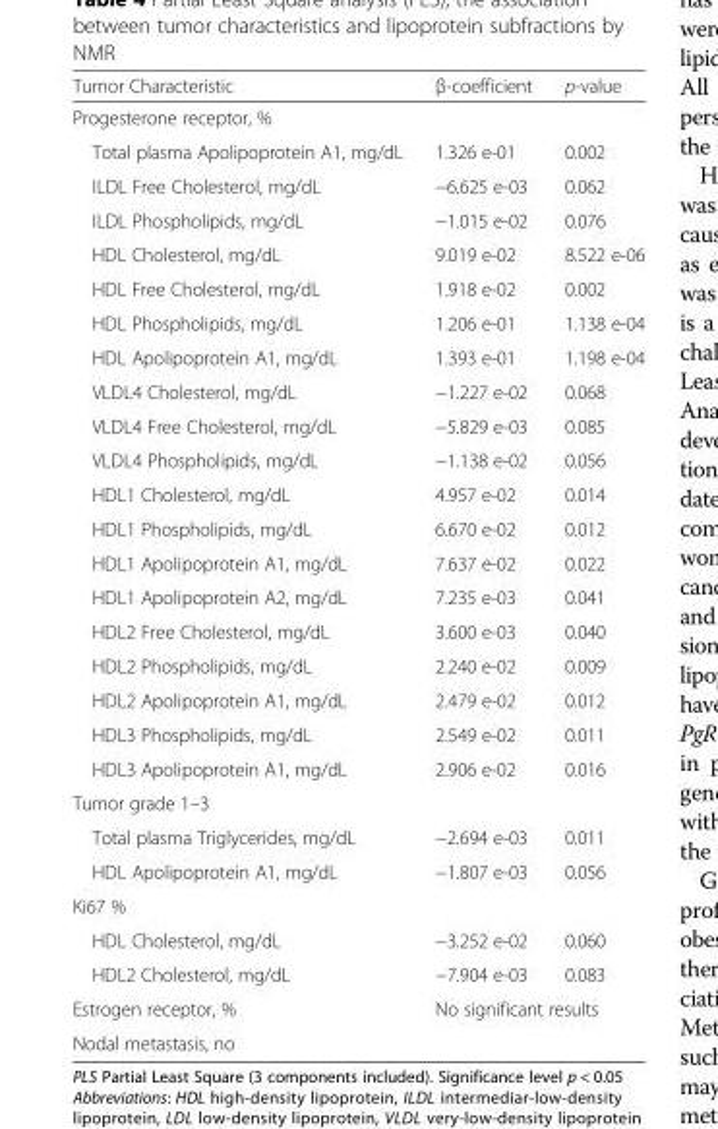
<table><thead><tr><td>Tumor Characteristic</td><td>β-coefficient</td><td>p-value</td></tr></thead><tbody><tr><td colspan="3">Progesterone receptor, %</td></tr><tr><td>Total plasma Apolipoprotein A1, mg/dL</td><td>1.326 e-01</td><td>0.002</td></tr><tr><td>ILDL Free Cholesterol, mg/dL</td><td>−6.625 e-03</td><td>0.062</td></tr><tr><td>ILDL Phospholipids, mg/dL</td><td>−1.015 e-02</td><td>0.076</td></tr><tr><td>HDL Cholesterol, mg/dL</td><td>9.019 e-02</td><td>8.522 e-06</td></tr><tr><td>HDL Free Cholesterol, mg/dL</td><td>1.918 e-02</td><td>0.002</td></tr><tr><td>HDL Phospholipids, mg/dL</td><td>1.206 e-01</td><td>1.138 e-04</td></tr><tr><td>HDL Apolipoprotein A1, mg/dL</td><td>1.393 e-01</td><td>1.198 e-04</td></tr><tr><td>VLDL4 Cholesterol, mg/dL</td><td>−1.227 e-02</td><td>0.068</td></tr><tr><td>VLDL4 Free Cholesterol, mg/dL</td><td>−5.829 e-03</td><td>0.085</td></tr><tr><td>VLDL4 Phospholipids, mg/dL</td><td>−1.138 e-02</td><td>0.056</td></tr><tr><td>HDL1 Cholesterol, mg/dL</td><td>4.957 e-02</td><td>0.014</td></tr><tr><td>HDL1 Phospholipids, mg/dL</td><td>6.670 e-02</td><td>0.012</td></tr><tr><td>HDL1 Apolipoprotein A1, mg/dL</td><td>7.637 e-02</td><td>0.022</td></tr><tr><td>HDL1 Apolipoprotein A2, mg/dL</td><td>7.235 e-03</td><td>0.041</td></tr><tr><td>HDL2 Free Cholesterol, mg/dL</td><td>3.600 e-03</td><td>0.040</td></tr><tr><td>HDL2 Phospholipids, mg/dL</td><td>2.240 e-02</td><td>0.009</td></tr><tr><td>HDL2 Apolipoprotein A1, mg/dL</td><td>2.479 e-02</td><td>0.012</td></tr><tr><td>HDL3 Phospholipids, mg/dL</td><td>2.549 e-02</td><td>0.011</td></tr><tr><td>HDL3 Apolipoprotein A1, mg/dL</td><td>2.906 e-02</td><td>0.016</td></tr><tr><td colspan="3">Tumor grade 1–3</td></tr><tr><td>Total plasma Triglycerides, mg/dL</td><td>−2.694 e-03</td><td>0.011</td></tr><tr><td>HDL Apolipoprotein A1, mg/dL</td><td>−1.807 e-03</td><td>0.056</td></tr><tr><td colspan="3">Ki67 %</td></tr><tr><td>HDL Cholesterol, mg/dL</td><td>−3.252 e-02</td><td>0.060</td></tr><tr><td>HDL2 Cholesterol, mg/dL</td><td>−7.904 e-03</td><td>0.083</td></tr><tr><td>Estrogen receptor, %</td><td rowspan="2" colspan="2">No significant results</td></tr><tr><td>Nodal metastasis, no</td></tr></tbody></table>